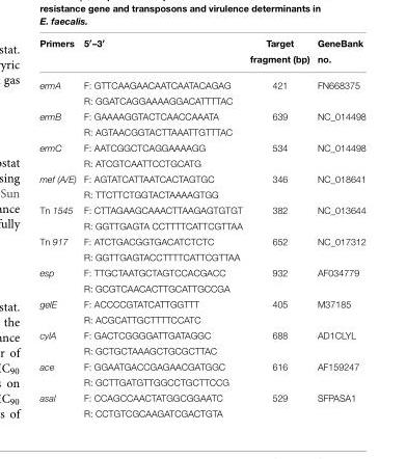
<table><thead><tr><td>Primers</td><td>5′–3′</td><td>Target fragment (bp)</td><td>GeneBank no.</td></tr></thead><tbody><tr><td rowspan="2">ermA</td><td>F: GTTCAAGAACAATCAATACAGAG</td><td>421</td><td>FN668375</td></tr><tr><td>R: GGATCAGGAAAAGGACATTTTAC</td><td></td><td></td></tr><tr><td rowspan="2">ermB</td><td>F: GAAAAGGTACTCAACCAAATA</td><td>639</td><td>NC_014498</td></tr><tr><td>R: AGTAACGGTACTTAAATTGTTTAC</td><td></td><td></td></tr><tr><td rowspan="2">ermC</td><td>F: AATCGGCTCAGGAAAAGG</td><td>534</td><td>NC_014498</td></tr><tr><td>R: ATCGTCAATTCCTGCATG</td><td></td><td></td></tr><tr><td rowspan="2">mef (A/E)</td><td>F: AGTATCATTAATCACTAGTGC</td><td>346</td><td>NC_018641</td></tr><tr><td>R: TTCTTCTGGTACTAAAAGTGG</td><td></td><td></td></tr><tr><td rowspan="2">Tn 1545</td><td>F: CTTAGAAGCAAACTTAAGAGTGTGT</td><td>382</td><td>NC_013644</td></tr><tr><td>R: GGTTGAGTA CCTTTTCATTCGTTAA</td><td></td><td></td></tr><tr><td rowspan="2">Tn 917</td><td>F: ATCTGACGGTGACATCTCTC</td><td>652</td><td>NC_017312</td></tr><tr><td>R: GGTTGAGTACCTTTTCATTCGTTAA</td><td></td><td></td></tr><tr><td rowspan="2">esp</td><td>F: TTGCTAATGCTAGTCCACGACC</td><td>932</td><td>AF034779</td></tr><tr><td>R: GCGTCAACACTTGCATTGCCGA</td><td></td><td></td></tr><tr><td rowspan="2">gelE</td><td>F: ACCCCGTATCATTGGTTT</td><td>405</td><td>M37185</td></tr><tr><td>R: ACGCATTGCTTTTCCATC</td><td></td><td></td></tr><tr><td rowspan="2">cylA</td><td>F: GACTCGGGGATTGATAGGC</td><td>688</td><td>AD1CLYL</td></tr><tr><td>R: GCTGCTAAAGCTGCGCTTAC</td><td></td><td></td></tr><tr><td rowspan="2">ace</td><td>F: GGAATGACCGAGAACGATGGC</td><td>616</td><td>AF159247</td></tr><tr><td>R: GCTTGATGTTGGCCTGCTTCCG</td><td></td><td></td></tr><tr><td rowspan="2">asal</td><td>F: CCAGCCAACTATGGCGGAATC</td><td>529</td><td>SFPASA1</td></tr><tr><td>R: CCTGTCGCAAGATCGACTGTA</td><td></td><td></td></tr></tbody></table>